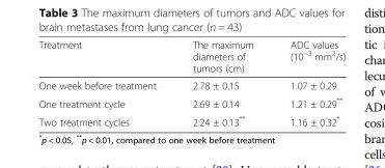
<table><thead><tr><td>Treatment</td><td>The maximum diameters of tumors (cm)</td><td>ADC values (10<sup>−3</sup> mm<sup>2</sup>/s)</td></tr></thead><tbody><tr><td>One week before treatment</td><td>2.78 ± 0.15</td><td>1.07 ± 0.29</td></tr><tr><td>One treatment cycle</td><td>2.69 ± 0.14</td><td>1.21 ± 0.29**</td></tr><tr><td>Two treatment cycles</td><td>2.24 ± 0.13**</td><td>1.16 ± 0.32*</td></tr></tbody></table>